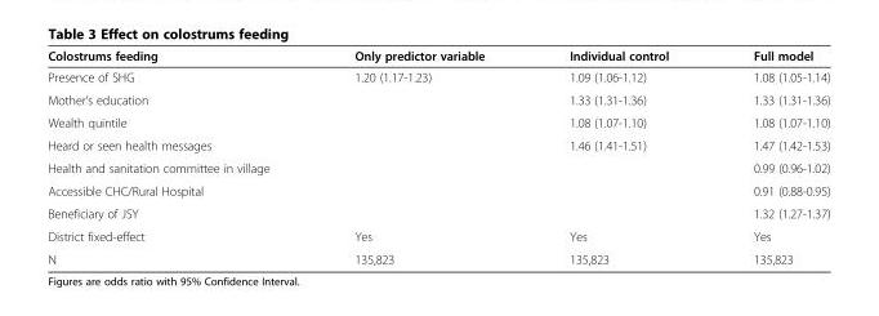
<table><thead><tr><td>Colostrums feeding</td><td>Only predictor variable</td><td>Individual control</td><td>Full model</td></tr></thead><tbody><tr><td>Presence of SHG</td><td>1.20 (1.17-1.23)</td><td>1.09 (1.06-1.12)</td><td>1.08 (1.05-1.14)</td></tr><tr><td>Mother’s education</td><td></td><td>1.33 (1.31-1.36)</td><td>1.33 (1.31-1.36)</td></tr><tr><td>Wealth quintile</td><td></td><td>1.08 (1.07-1.10)</td><td>1.08 (1.07-1.10)</td></tr><tr><td>Heard or seen health messages</td><td></td><td>1.46 (1.41-1.51)</td><td>1.47 (1.42-1.53)</td></tr><tr><td>Health and sanitation committee in village</td><td></td><td></td><td>0.99 (0.96-1.02)</td></tr><tr><td>Accessible CHC/Rural Hospital</td><td></td><td></td><td>0.91 (0.88-0.95)</td></tr><tr><td>Beneficiary of JSY</td><td></td><td></td><td>1.32 (1.27-1.37)</td></tr><tr><td>District fixed-effect</td><td>Yes</td><td>Yes</td><td>Yes</td></tr><tr><td>N</td><td>135,823</td><td>135,823</td><td>135,823</td></tr></tbody></table>